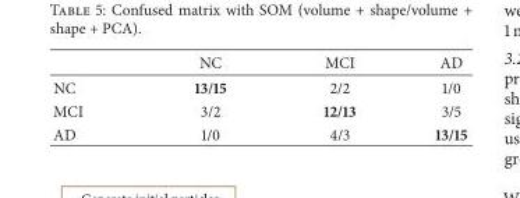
<table><thead><tr><td></td><td>NC</td><td>MCI</td><td>AD</td></tr></thead><tbody><tr><td>NC</td><td>13/15</td><td>2/2</td><td>1/0</td></tr><tr><td>MCI</td><td>3/2</td><td>12/13</td><td>3/5</td></tr><tr><td>AD</td><td>1/0</td><td>4/3</td><td>13/15</td></tr></tbody></table>